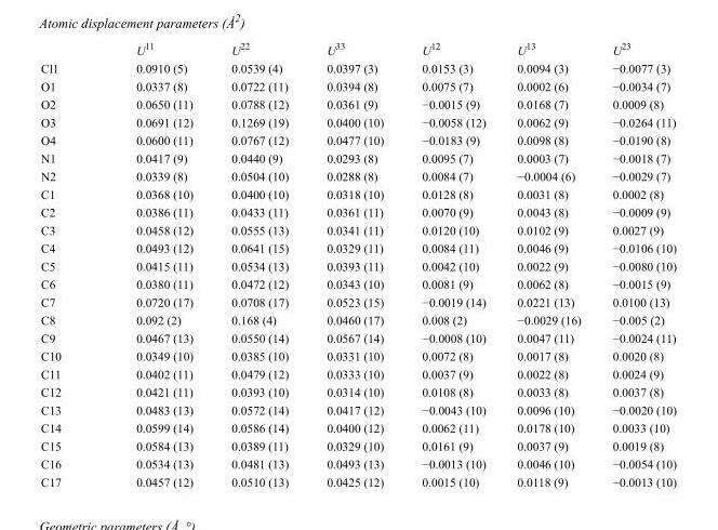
<table><thead><tr><td></td><td>U<sup>11</sup></td><td>U<sup>22</sup></td><td>U<sup>33</sup></td><td>U<sup>12</sup></td><td>U<sup>13</sup></td><td>U<sup>23</sup></td></tr></thead><tbody><tr><td>Cl1</td><td>0.0910 (5)</td><td>0.0539 (4)</td><td>0.0397 (3)</td><td>0.0153 (3)</td><td>0.0094 (3)</td><td>−0.0077 (3)</td></tr><tr><td>O1</td><td>0.0337 (8)</td><td>0.0722 (11)</td><td>0.0394 (8)</td><td>0.0075 (7)</td><td>0.0002 (6)</td><td>−0.0034 (7)</td></tr><tr><td>O2</td><td>0.0650 (11)</td><td>0.0788 (12)</td><td>0.0361 (9)</td><td>−0.0015 (9)</td><td>0.0168 (7)</td><td>0.0009 (8)</td></tr><tr><td>O3</td><td>0.0691 (12)</td><td>0.1269 (19)</td><td>0.0400 (10)</td><td>−0.0058 (12)</td><td>0.0062 (9)</td><td>−0.0264 (11)</td></tr><tr><td>O4</td><td>0.0600 (11)</td><td>0.0767 (12)</td><td>0.0477 (10)</td><td>−0.0183 (9)</td><td>0.0098 (8)</td><td>−0.0190 (8)</td></tr><tr><td>N1</td><td>0.0417 (9)</td><td>0.0440 (9)</td><td>0.0293 (8)</td><td>0.0095 (7)</td><td>0.0003 (7)</td><td>−0.0018 (7)</td></tr><tr><td>N2</td><td>0.0339 (8)</td><td>0.0504 (10)</td><td>0.0288 (8)</td><td>0.0084 (7)</td><td>−0.0004 (6)</td><td>−0.0029 (7)</td></tr><tr><td>C1</td><td>0.0368 (10)</td><td>0.0400 (10)</td><td>0.0318 (10)</td><td>0.0128 (8)</td><td>0.0031 (8)</td><td>0.0002 (8)</td></tr><tr><td>C2</td><td>0.0386 (11)</td><td>0.0433 (11)</td><td>0.0361 (11)</td><td>0.0070 (9)</td><td>0.0043 (8)</td><td>−0.0009 (9)</td></tr><tr><td>C3</td><td>0.0458 (12)</td><td>0.0555 (13)</td><td>0.0341 (11)</td><td>0.0120 (10)</td><td>0.0102 (9)</td><td>0.0027 (9)</td></tr><tr><td>C4</td><td>0.0493 (12)</td><td>0.0641 (15)</td><td>0.0329 (11)</td><td>0.0084 (11)</td><td>0.0046 (9)</td><td>−0.0106 (10)</td></tr><tr><td>C5</td><td>0.0415 (11)</td><td>0.0534 (13)</td><td>0.0393 (11)</td><td>0.0042 (10)</td><td>0.0022 (9)</td><td>−0.0080 (10)</td></tr><tr><td>C6</td><td>0.0380 (11)</td><td>0.0472 (12)</td><td>0.0343 (10)</td><td>0.0081 (9)</td><td>0.0062 (8)</td><td>−0.0015 (9)</td></tr><tr><td>C7</td><td>0.0720 (17)</td><td>0.0708 (17)</td><td>0.0523 (15)</td><td>−0.0019 (14)</td><td>0.0221 (13)</td><td>0.0100 (13)</td></tr><tr><td>C8</td><td>0.092 (2)</td><td>0.168 (4)</td><td>0.0460 (17)</td><td>0.008 (2)</td><td>−0.0029 (16)</td><td>−0.005 (2)</td></tr><tr><td>C9</td><td>0.0467 (13)</td><td>0.0550 (14)</td><td>0.0567 (14)</td><td>−0.0008 (10)</td><td>0.0047 (11)</td><td>−0.0024 (11)</td></tr><tr><td>C10</td><td>0.0349 (10)</td><td>0.0385 (10)</td><td>0.0331 (10)</td><td>0.0072 (8)</td><td>0.0017 (8)</td><td>0.0020 (8)</td></tr><tr><td>C11</td><td>0.0402 (11)</td><td>0.0479 (12)</td><td>0.0333 (10)</td><td>0.0037 (9)</td><td>0.0022 (8)</td><td>0.0024 (9)</td></tr><tr><td>C12</td><td>0.0421 (11)</td><td>0.0393 (10)</td><td>0.0314 (10)</td><td>0.0108 (8)</td><td>0.0033 (8)</td><td>0.0037 (8)</td></tr><tr><td>C13</td><td>0.0483 (13)</td><td>0.0572 (14)</td><td>0.0417 (12)</td><td>−0.0043 (10)</td><td>0.0096 (10)</td><td>−0.0020 (10)</td></tr><tr><td>C14</td><td>0.0599 (14)</td><td>0.0586 (14)</td><td>0.0400 (12)</td><td>0.0062 (11)</td><td>0.0178 (10)</td><td>0.0033 (10)</td></tr><tr><td>C15</td><td>0.0584 (13)</td><td>0.0389 (11)</td><td>0.0329 (10)</td><td>0.0161 (9)</td><td>0.0037 (9)</td><td>0.0019 (8)</td></tr><tr><td>C16</td><td>0.0534 (13)</td><td>0.0481 (13)</td><td>0.0493 (13)</td><td>−0.0013 (10)</td><td>0.0046 (10)</td><td>−0.0054 (10)</td></tr><tr><td>C17</td><td>0.0457 (12)</td><td>0.0510 (13)</td><td>0.0425 (12)</td><td>0.0015 (10)</td><td>0.0118 (9)</td><td>−0.0013 (10)</td></tr></tbody></table>